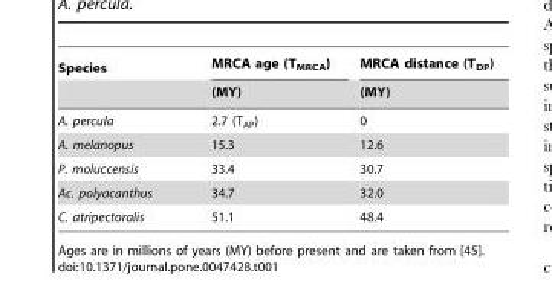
<table><thead><tr><td rowspan="2">Species</td><td rowspan="2">MRCA age (T<sub>MRCA</sub>) (MY)</td><td rowspan="2">MRCA distance (T<sub>DP</sub>) (MY)</td></tr><tr></tr></thead><tbody><tr><td>A. percula</td><td>2.7 (T<sub>AP</sub>)</td><td>0</td></tr><tr><td>A. melanopus</td><td>15.3</td><td>12.6</td></tr><tr><td>P. moluccensis</td><td>33.4</td><td>30.7</td></tr><tr><td>Ac. polyacanthus</td><td>34.7</td><td>32.0</td></tr><tr><td>C. atripectoralis</td><td>51.1</td><td>48.4</td></tr></tbody></table>